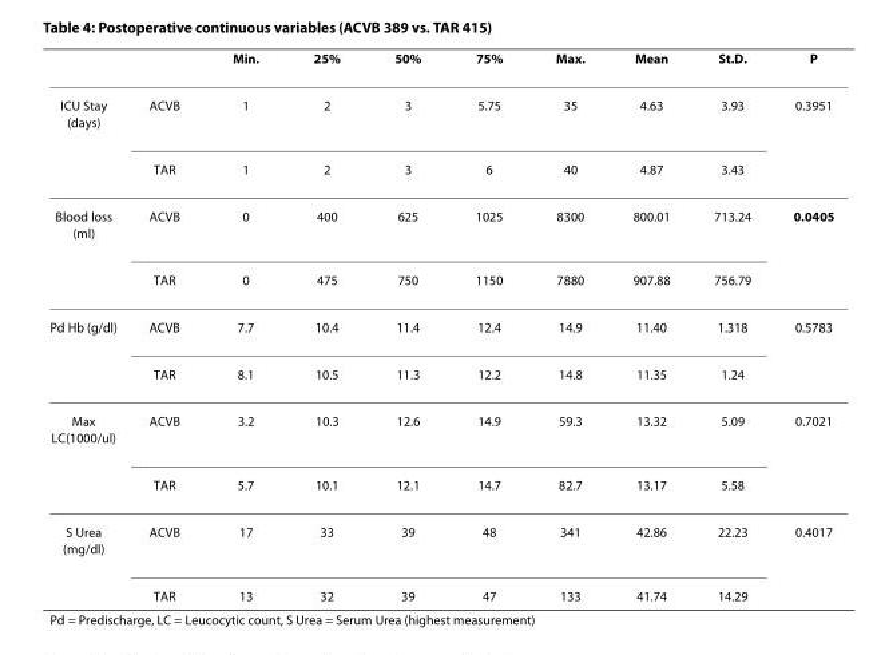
<table><thead><tr><td></td><td></td><td>Min.</td><td>25%</td><td>50%</td><td>75%</td><td>Max.</td><td>Mean</td><td>St.D.</td><td>P</td></tr></thead><tbody><tr><td rowspan="2">ICU Stay (days)</td><td>ACVB</td><td>1</td><td>2</td><td>3</td><td>5.75</td><td>35</td><td>4.63</td><td>3.93</td><td>0.3951</td></tr><tr><td>TAR</td><td>1</td><td>2</td><td>3</td><td>6</td><td>40</td><td>4.87</td><td>3.43</td><td></td></tr><tr><td rowspan="2">Blood loss (ml)</td><td>ACVB</td><td>0</td><td>400</td><td>625</td><td>1025</td><td>8300</td><td>800.01</td><td>713.24</td><td>0.0405</td></tr><tr><td>TAR</td><td>0</td><td>475</td><td>750</td><td>1150</td><td>7880</td><td>907.88</td><td>756.79</td><td></td></tr><tr><td rowspan="2">Pd Hb (g/dl)</td><td>ACVB</td><td>7.7</td><td>10.4</td><td>11.4</td><td>12.4</td><td>14.9</td><td>11.40</td><td>1.318</td><td>0.5783</td></tr><tr><td>TAR</td><td>8.1</td><td>10.5</td><td>11.3</td><td>12.2</td><td>14.8</td><td>11.35</td><td>1.24</td><td></td></tr><tr><td rowspan="2">Max LC(1000/ul)</td><td>ACVB</td><td>3.2</td><td>10.3</td><td>12.6</td><td>14.9</td><td>59.3</td><td>13.32</td><td>5.09</td><td>0.7021</td></tr><tr><td>TAR</td><td>5.7</td><td>10.1</td><td>12.1</td><td>14.7</td><td>82.7</td><td>13.17</td><td>5.58</td><td></td></tr><tr><td rowspan="2">S Urea (mg/dl)</td><td>ACVB</td><td>17</td><td>33</td><td>39</td><td>48</td><td>341</td><td>42.86</td><td>22.23</td><td>0.4017</td></tr><tr><td>TAR</td><td>13</td><td>32</td><td>39</td><td>47</td><td>133</td><td>41.74</td><td>14.29</td><td></td></tr></tbody></table>